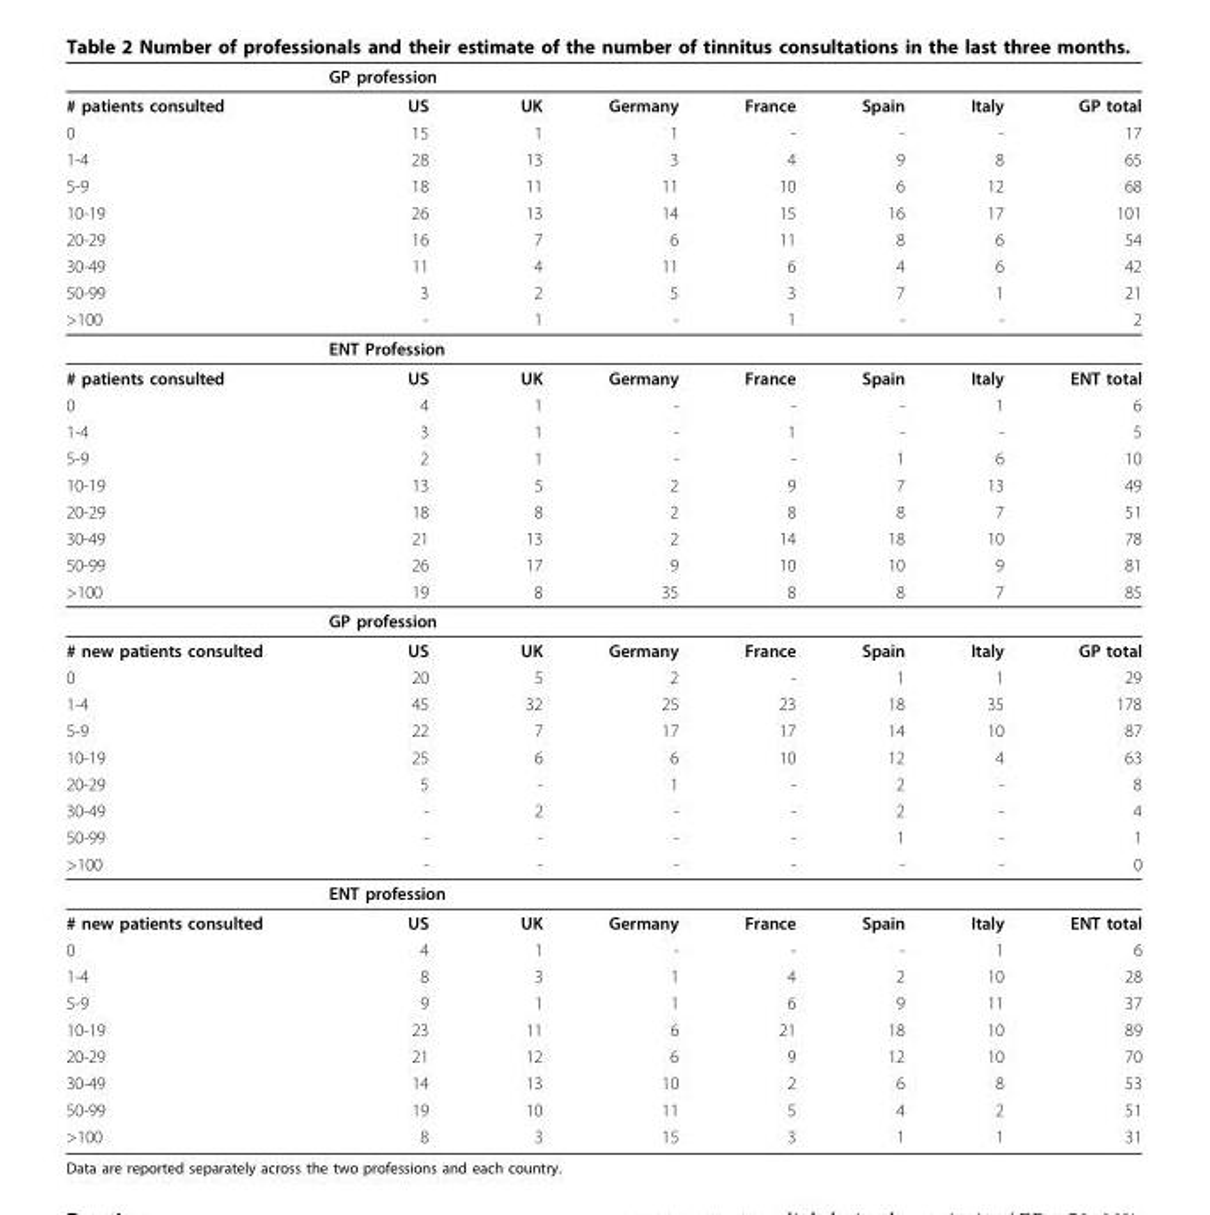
<table><thead><tr><td rowspan="2"># patients consulted</td><td colspan="2">GP profession</td><td rowspan="2">Germany</td><td rowspan="2">France</td><td rowspan="2">Spain</td><td rowspan="2">Italy</td><td rowspan="2">GP total</td></tr><tr><td>US</td><td>UK</td></tr></thead><tbody><tr><td>0</td><td>15</td><td>1</td><td>1</td><td>-</td><td>-</td><td>-</td><td>17</td></tr><tr><td>1-4</td><td>28</td><td>13</td><td>3</td><td>4</td><td>9</td><td>8</td><td>65</td></tr><tr><td>5-9</td><td>18</td><td>11</td><td>11</td><td>10</td><td>6</td><td>12</td><td>68</td></tr><tr><td>10-19</td><td>26</td><td>13</td><td>14</td><td>15</td><td>16</td><td>17</td><td>101</td></tr><tr><td>20-29</td><td>16</td><td>7</td><td>6</td><td>11</td><td>8</td><td>6</td><td>54</td></tr><tr><td>30-49</td><td>11</td><td>4</td><td>11</td><td>6</td><td>4</td><td>6</td><td>42</td></tr><tr><td>50-99</td><td>3</td><td>2</td><td>5</td><td>3</td><td>7</td><td>1</td><td>21</td></tr><tr><td rowspan="2">&gt;100</td><td>-</td><td>1</td><td>-</td><td>1</td><td>-</td><td>-</td><td>2</td></tr><tr><td colspan="3">ENT Profession</td><td></td><td></td><td></td><td></td></tr><tr><td># patients consulted</td><td>US</td><td>UK</td><td>Germany</td><td>France</td><td>Spain</td><td>Italy</td><td>ENT total</td></tr><tr><td>0</td><td>4</td><td>1</td><td>-</td><td>-</td><td>-</td><td>1</td><td>6</td></tr><tr><td>1-4</td><td>3</td><td>1</td><td>-</td><td>1</td><td>-</td><td>-</td><td>5</td></tr><tr><td>5-9</td><td>2</td><td>1</td><td>-</td><td>-</td><td>1</td><td>6</td><td>10</td></tr><tr><td>10-19</td><td>13</td><td>5</td><td>2</td><td>9</td><td>7</td><td>13</td><td>49</td></tr><tr><td>20-29</td><td>18</td><td>8</td><td>2</td><td>8</td><td>8</td><td>7</td><td>51</td></tr><tr><td>30-49</td><td>21</td><td>13</td><td>2</td><td>14</td><td>18</td><td>10</td><td>78</td></tr><tr><td>50-99</td><td>26</td><td>17</td><td>9</td><td>10</td><td>10</td><td>9</td><td>81</td></tr><tr><td rowspan="2">&gt;100</td><td>19</td><td>8</td><td>35</td><td>8</td><td>8</td><td>7</td><td>85</td></tr><tr><td colspan="3">GP profession</td><td></td><td></td><td></td><td></td></tr><tr><td># new patients consulted</td><td>US</td><td>UK</td><td>Germany</td><td>France</td><td>Spain</td><td>Italy</td><td>GP total</td></tr><tr><td>0</td><td>20</td><td>5</td><td>2</td><td>-</td><td>1</td><td>1</td><td>29</td></tr><tr><td>1-4</td><td>45</td><td>32</td><td>25</td><td>23</td><td>18</td><td>35</td><td>178</td></tr><tr><td>5-9</td><td>22</td><td>7</td><td>17</td><td>17</td><td>14</td><td>10</td><td>87</td></tr><tr><td>10-19</td><td>25</td><td>6</td><td>6</td><td>10</td><td>12</td><td>4</td><td>63</td></tr><tr><td>20-29</td><td>5</td><td>-</td><td>1</td><td>-</td><td>2</td><td>-</td><td>8</td></tr><tr><td>30-49</td><td>-</td><td>2</td><td>-</td><td>-</td><td>2</td><td>-</td><td>4</td></tr><tr><td>50-99</td><td>-</td><td>-</td><td>-</td><td>-</td><td>1</td><td>-</td><td>1</td></tr><tr><td rowspan="2">&gt;100</td><td>-</td><td>-</td><td>-</td><td>-</td><td>-</td><td>-</td><td>0</td></tr><tr><td colspan="3">ENT profession</td><td></td><td></td><td></td><td></td></tr><tr><td># new patients consulted</td><td>US</td><td>UK</td><td>Germany</td><td>France</td><td>Spain</td><td>Italy</td><td>ENT total</td></tr><tr><td>0</td><td>4</td><td>1</td><td>-</td><td>-</td><td>-</td><td>1</td><td>6</td></tr><tr><td>1-4</td><td>8</td><td>3</td><td>1</td><td>4</td><td>2</td><td>10</td><td>28</td></tr><tr><td>5-9</td><td>9</td><td>1</td><td>1</td><td>6</td><td>9</td><td>11</td><td>37</td></tr><tr><td>10-19</td><td>23</td><td>11</td><td>6</td><td>21</td><td>18</td><td>10</td><td>89</td></tr><tr><td>20-29</td><td>21</td><td>12</td><td>6</td><td>9</td><td>12</td><td>10</td><td>70</td></tr><tr><td>30-49</td><td>14</td><td>13</td><td>10</td><td>2</td><td>6</td><td>8</td><td>53</td></tr><tr><td>50-99</td><td>19</td><td>10</td><td>11</td><td>5</td><td>4</td><td>2</td><td>51</td></tr><tr><td>&gt;100</td><td>8</td><td>3</td><td>15</td><td>3</td><td>1</td><td>1</td><td>31</td></tr></tbody></table>